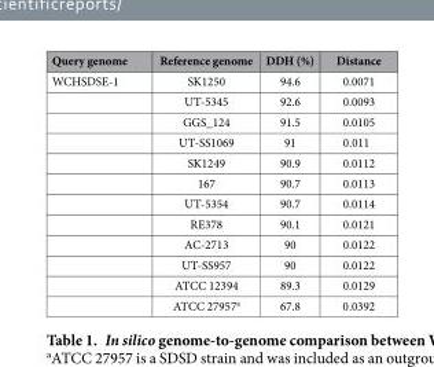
<table><thead><tr><td>Query genome</td><td>Reference genome</td><td>DDH (%)</td><td>Distance</td></tr></thead><tbody><tr><td rowspan="12">WCHSDSE-1</td><td>SK1250</td><td>94.6</td><td>0.0071</td></tr><tr><td>UT-5345</td><td>92.6</td><td>0.0093</td></tr><tr><td>GGS_124</td><td>91.5</td><td>0.0105</td></tr><tr><td>UT-SS1069</td><td>91</td><td>0.011</td></tr><tr><td>SK1249</td><td>90.9</td><td>0.0112</td></tr><tr><td>167</td><td>90.7</td><td>0.0113</td></tr><tr><td>UT-5354</td><td>90.7</td><td>0.0114</td></tr><tr><td>RE378</td><td>90.1</td><td>0.0121</td></tr><tr><td>AC-2713</td><td>90</td><td>0.0122</td></tr><tr><td>UT-SS957</td><td>90</td><td>0.0122</td></tr><tr><td>ATCC 12394</td><td>89.3</td><td>0.0129</td></tr><tr><td>ATCC 27957<sup>a</sup></td><td>67.8</td><td>0.0392</td></tr></tbody></table>